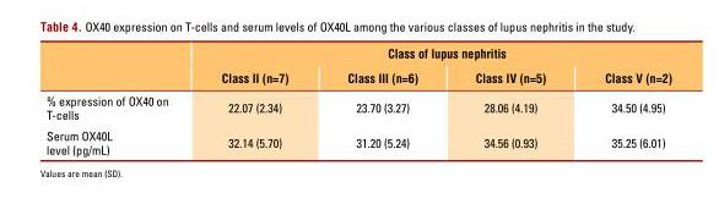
<table><thead><tr><td rowspan="2"></td><td colspan="4">Class of lupus nephritis</td></tr><tr><td>Class II (n=7)</td><td>Class III (n=6)</td><td>Class IV (n=5)</td><td>Class V (n=2)</td></tr></thead><tbody><tr><td>% expression of OX40 on T-cells</td><td>22.07 (2.34)</td><td>23.70 (3.27)</td><td>28.06 (4.19)</td><td>34.50 (4.95)</td></tr><tr><td>Serum OX40L level (pg/mL)</td><td>32.14 (5.70)</td><td>31.20 (5.24)</td><td>34.56 (0.93)</td><td>35.25 (6.01)</td></tr></tbody></table>